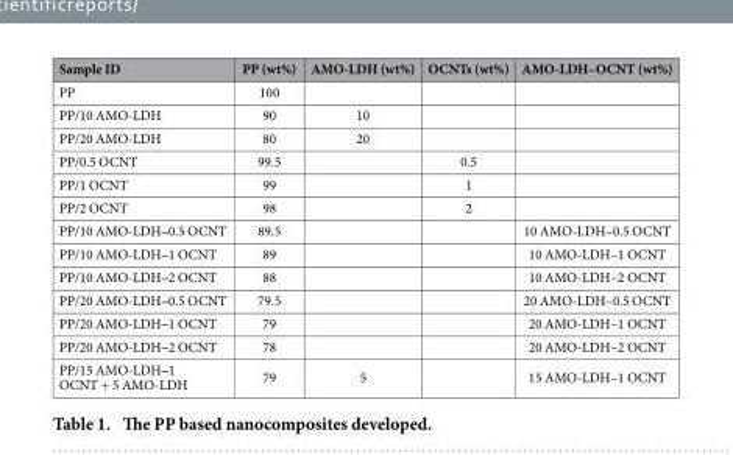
<table><thead><tr><td>Sample ID</td><td>PP (wt%)</td><td>AMO-LDH (wt%)</td><td>OCNTs (wt%)</td><td>AMO-LDH–OCNT (wt%)</td></tr></thead><tbody><tr><td>PP</td><td>100</td><td></td><td></td><td></td></tr><tr><td>PP/10 AMO-LDH</td><td>90</td><td>10</td><td></td><td></td></tr><tr><td>PP/20 AMO-LDH</td><td>80</td><td>20</td><td></td><td></td></tr><tr><td>PP/0.5 OCNT</td><td>99.5</td><td></td><td>0.5</td><td></td></tr><tr><td>PP/1 OCNT</td><td>99</td><td></td><td>1</td><td></td></tr><tr><td>PP/2 OCNT</td><td>98</td><td></td><td>2</td><td></td></tr><tr><td>PP/10 AMO-LDH‒ 0.5 OCNT</td><td>89.5</td><td></td><td></td><td>10 AMO-LDH–0.5 OCNT</td></tr><tr><td>PP/10 AMO-LDH‒ 1 OCNT</td><td>89</td><td></td><td></td><td>10 AMO-LDH–1 OCNT</td></tr><tr><td>PP/10 AMO-LDH‒ 2 OCNT</td><td>88</td><td></td><td></td><td>10 AMO-LDH–2 OCNT</td></tr><tr><td>PP/20 AMO-LDH‒ 0.5 OCNT</td><td>79.5</td><td></td><td></td><td>20 AMO-LDH–0.5 OCNT</td></tr><tr><td>PP/20 AMO-LDH‒ 1 OCNT</td><td>79</td><td></td><td></td><td>20 AMO-LDH–1 OCNT</td></tr><tr><td>PP/20 AMO-LDH‒ 2 OCNT</td><td>78</td><td></td><td></td><td>20 AMO-LDH–2 OCNT</td></tr><tr><td>PP/15 AMO-LDH‒ 1 OCNT + 5 AMO-LDH</td><td>79</td><td>5</td><td></td><td>15 AMO-LDH–1 OCNT</td></tr></tbody></table>